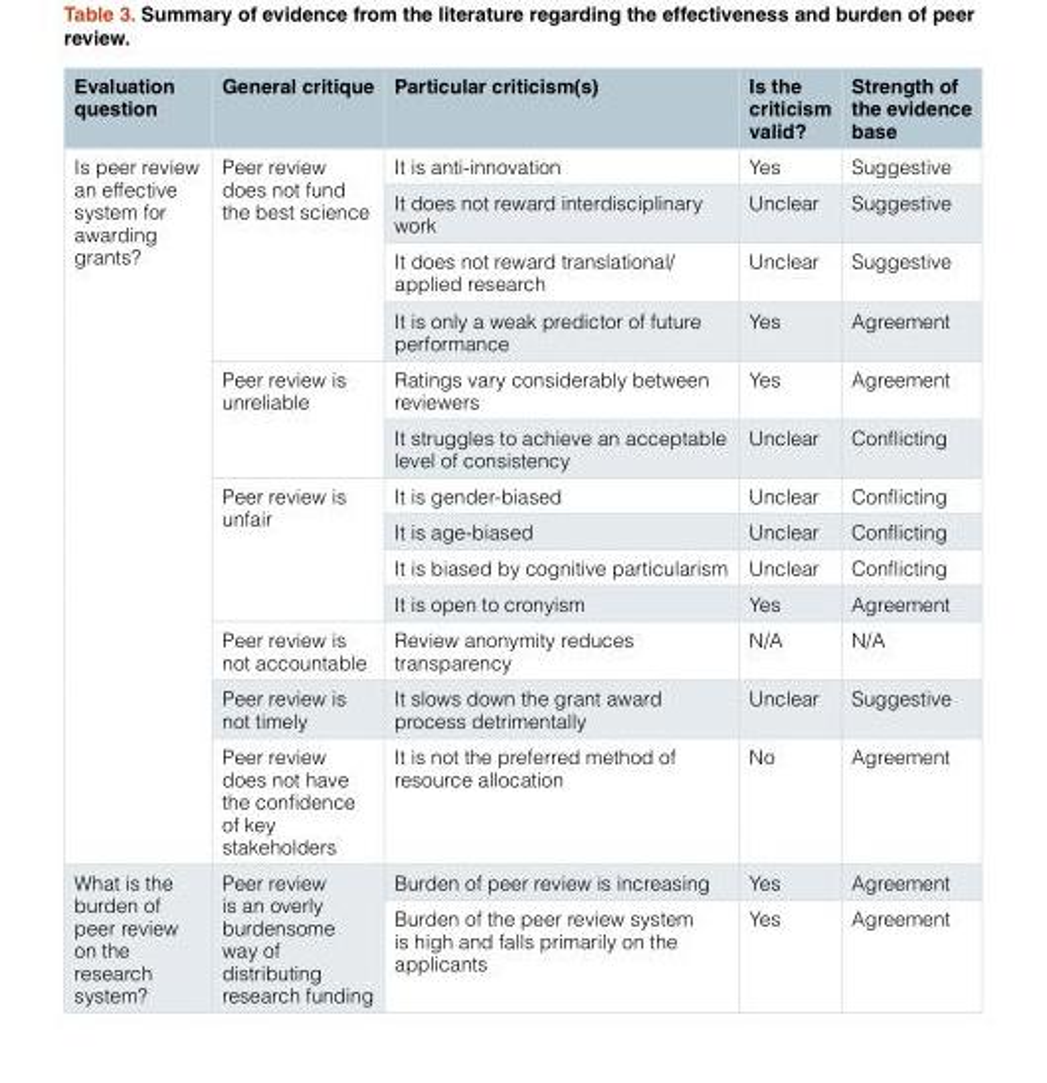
<table><thead><tr><td>Evaluation question</td><td>General critique</td><td>Particular criticism(s)</td><td>Is the criticism valid?</td><td>Strength of the evidence base</td></tr></thead><tbody><tr><td rowspan="13">Is peer review an effective system for awarding grants?</td><td rowspan="4">Peer review does not fund the best science</td><td>It is anti-innovation</td><td>Yes</td><td>Suggestive</td></tr><tr><td>It does not reward interdisciplinary work</td><td>Unclear</td><td>Suggestive</td></tr><tr><td>It does not reward translational/ applied research</td><td>Unclear</td><td>Suggestive</td></tr><tr><td>It is only a weak predictor of future performance</td><td>Yes</td><td>Agreement</td></tr><tr><td rowspan="2">Peer review is unreliable</td><td>Ratings vary considerably between reviewers</td><td>Yes</td><td>Agreement</td></tr><tr><td>It struggles to achieve an acceptable level of consistency</td><td>Unclear</td><td>Conflicting</td></tr><tr><td rowspan="4">Peer review is unfair</td><td>It is gender-biased</td><td>Unclear</td><td>Conflicting</td></tr><tr><td>It is age-biased</td><td>Unclear</td><td>Conflicting</td></tr><tr><td>It is biased by cognitive particularism</td><td>Unclear</td><td>Conflicting</td></tr><tr><td>It is open to cronyism</td><td>Yes</td><td>Agreement</td></tr><tr><td>Peer review is not accountable</td><td>Review anonymity reduces transparency</td><td>N/A</td><td>N/A</td></tr><tr><td>Peer review is not timely</td><td>It slows down the grant award process detrimentally</td><td>Unclear</td><td>Suggestive</td></tr><tr><td>Peer review does not have the confidence of key stakeholders</td><td>It is not the preferred method of resource allocation</td><td>No</td><td>Agreement</td></tr><tr><td rowspan="2">What is the burden of peer review on the research system?</td><td rowspan="2">Peer review is an overly burdensome way of distributing research funding</td><td>Burden of peer review is increasing</td><td>Yes</td><td>Agreement</td></tr><tr><td>Burden of the peer review system is high and falls primarily on the applicants</td><td>Yes</td><td>Agreement</td></tr></tbody></table>